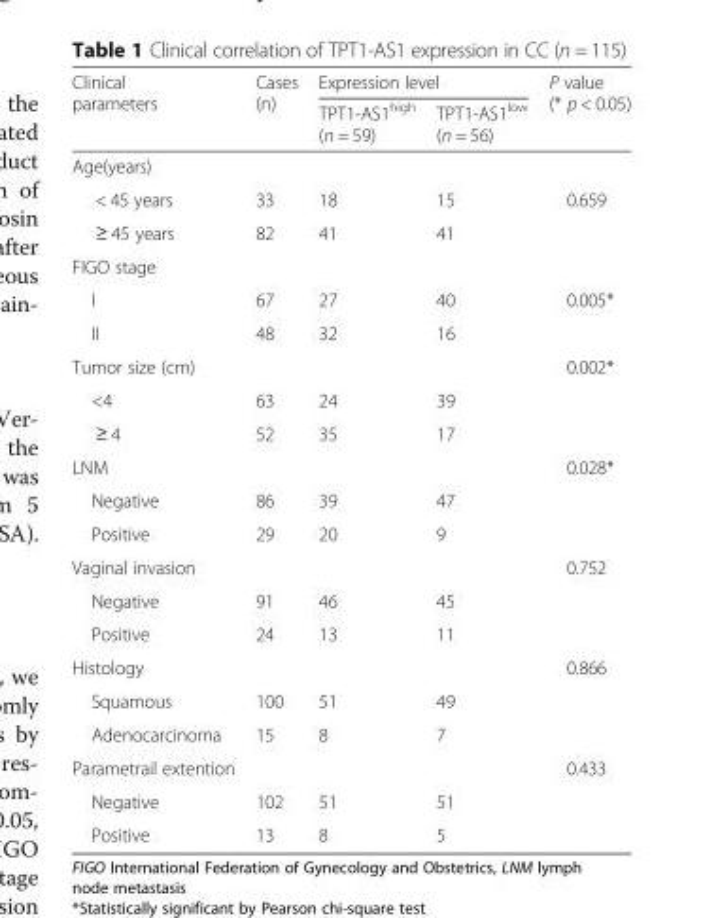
<table><thead><tr><td rowspan="2">Clinical parameters</td><td rowspan="2">Cases (n)</td><td colspan="2">Expression level</td><td rowspan="2">P value (* p &lt; 0.05)</td></tr><tr><td>TPT1-AS1high (n = 59)</td><td>TPT1-AS1low (n = 56)</td></tr></thead><tbody><tr><td colspan="5">Age(years)</td></tr><tr><td>&lt; 45 years</td><td>33</td><td>18</td><td>15</td><td rowspan="2">0.659</td></tr><tr><td>≥ 45 years</td><td>82</td><td>41</td><td>41</td></tr><tr><td colspan="5">FIGO stage</td></tr><tr><td>I</td><td>67</td><td>27</td><td>40</td><td>0.005*</td></tr><tr><td>II</td><td>48</td><td>32</td><td>16</td><td></td></tr><tr><td>Tumor size (cm)</td><td></td><td></td><td></td><td>0.002*</td></tr><tr><td>&lt;4</td><td>63</td><td>24</td><td>39</td><td></td></tr><tr><td>≥ 4</td><td>52</td><td>35</td><td>17</td><td></td></tr><tr><td>LNM</td><td></td><td></td><td></td><td>0.028*</td></tr><tr><td>Negative</td><td>86</td><td>39</td><td>47</td><td></td></tr><tr><td>Positive</td><td>29</td><td>20</td><td>9</td><td></td></tr><tr><td>Vaginal invasion</td><td></td><td></td><td></td><td>0.752</td></tr><tr><td>Negative</td><td>91</td><td>46</td><td>45</td><td></td></tr><tr><td>Positive</td><td>24</td><td>13</td><td>11</td><td></td></tr><tr><td>Histology</td><td></td><td></td><td></td><td>0.866</td></tr><tr><td>Squamous</td><td>100</td><td>51</td><td>49</td><td></td></tr><tr><td>Adenocarcinoma</td><td>15</td><td>8</td><td>7</td><td></td></tr><tr><td>Parametrail extention</td><td></td><td></td><td></td><td>0.433</td></tr><tr><td>Negative</td><td>102</td><td>51</td><td>51</td><td></td></tr><tr><td>Positive</td><td>13</td><td>8</td><td>5</td><td></td></tr></tbody></table>